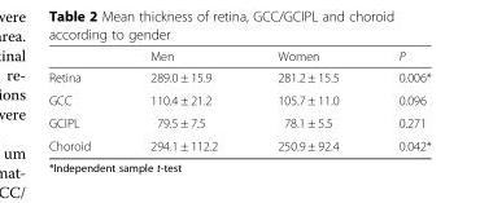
<table><thead><tr><td></td><td>Men</td><td>Women</td><td>P</td></tr></thead><tbody><tr><td>Retina</td><td>289.0 ± 15.9</td><td>281.2 ± 15.5</td><td>0.006*</td></tr><tr><td>GCC</td><td>110.4 ± 21.2</td><td>105.7 ± 11.0</td><td>0.096</td></tr><tr><td>GCIPL</td><td>79.5 ± 7.5</td><td>78.1 ± 5.5</td><td>0.271</td></tr><tr><td>Choroid</td><td>294.1 ± 112.2</td><td>250.9 ± 92.4</td><td>0.042*</td></tr></tbody></table>